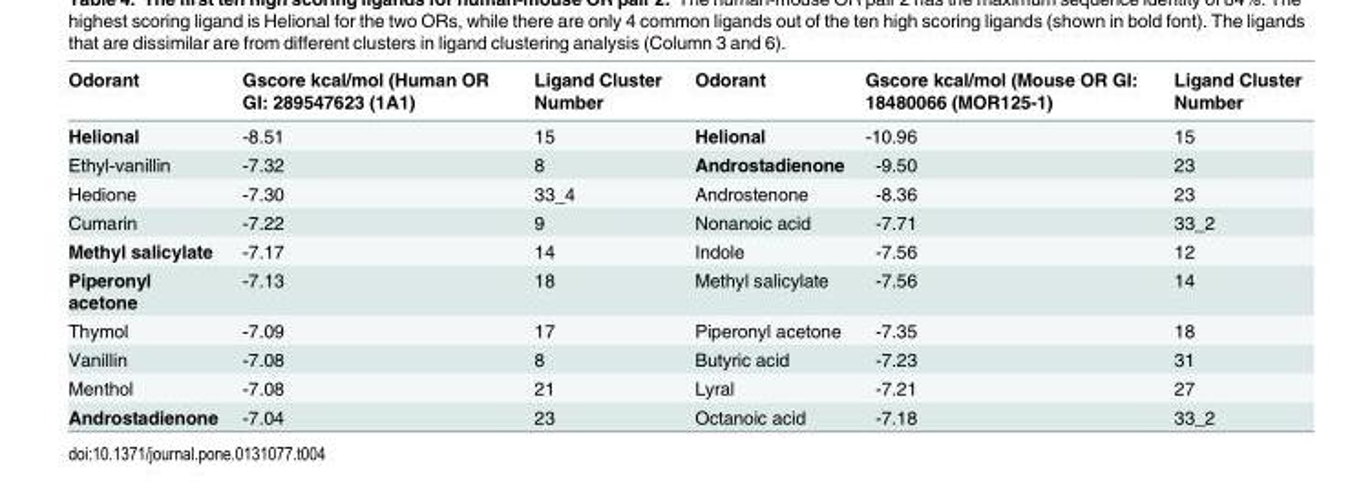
<table><thead><tr><td>Odorant</td><td>Gscore kcal/mol (Human OR GI: 289547623 (1A1)</td><td>Ligand Cluster Number</td><td>Odorant</td><td>Gscore kcal/mol (Mouse OR GI: 18480066 (MOR125-1)</td><td>Ligand Cluster Number</td></tr></thead><tbody><tr><td>Helional</td><td>-8.51</td><td>15</td><td>Helional</td><td>-10.96</td><td>15</td></tr><tr><td>Ethyl-vanillin</td><td>-7.32</td><td>8</td><td>Androstadienone</td><td>-9.50</td><td>23</td></tr><tr><td>Hedione</td><td>-7.30</td><td>33_4</td><td>Androstenone</td><td>-8.36</td><td>23</td></tr><tr><td>Cumarin</td><td>-7.22</td><td>9</td><td>Nonanoic acid</td><td>-7.71</td><td>33_2</td></tr><tr><td>Methyl salicylate</td><td>-7.17</td><td>14</td><td>Indole</td><td>-7.56</td><td>12</td></tr><tr><td>Piperonyl acetone</td><td>-7.13</td><td>18</td><td>Methyl salicylate</td><td>-7.56</td><td>14</td></tr><tr><td>Thymol</td><td>-7.09</td><td>17</td><td>Piperonyl acetone</td><td>-7.35</td><td>18</td></tr><tr><td>Vanillin</td><td>-7.08</td><td>8</td><td>Butyric acid</td><td>-7.23</td><td>31</td></tr><tr><td>Menthol</td><td>-7.08</td><td>21</td><td>Lyral</td><td>-7.21</td><td>27</td></tr><tr><td>Androstadienone</td><td>-7.04</td><td>23</td><td>Octanoic acid</td><td>-7.18</td><td>33_2</td></tr></tbody></table>